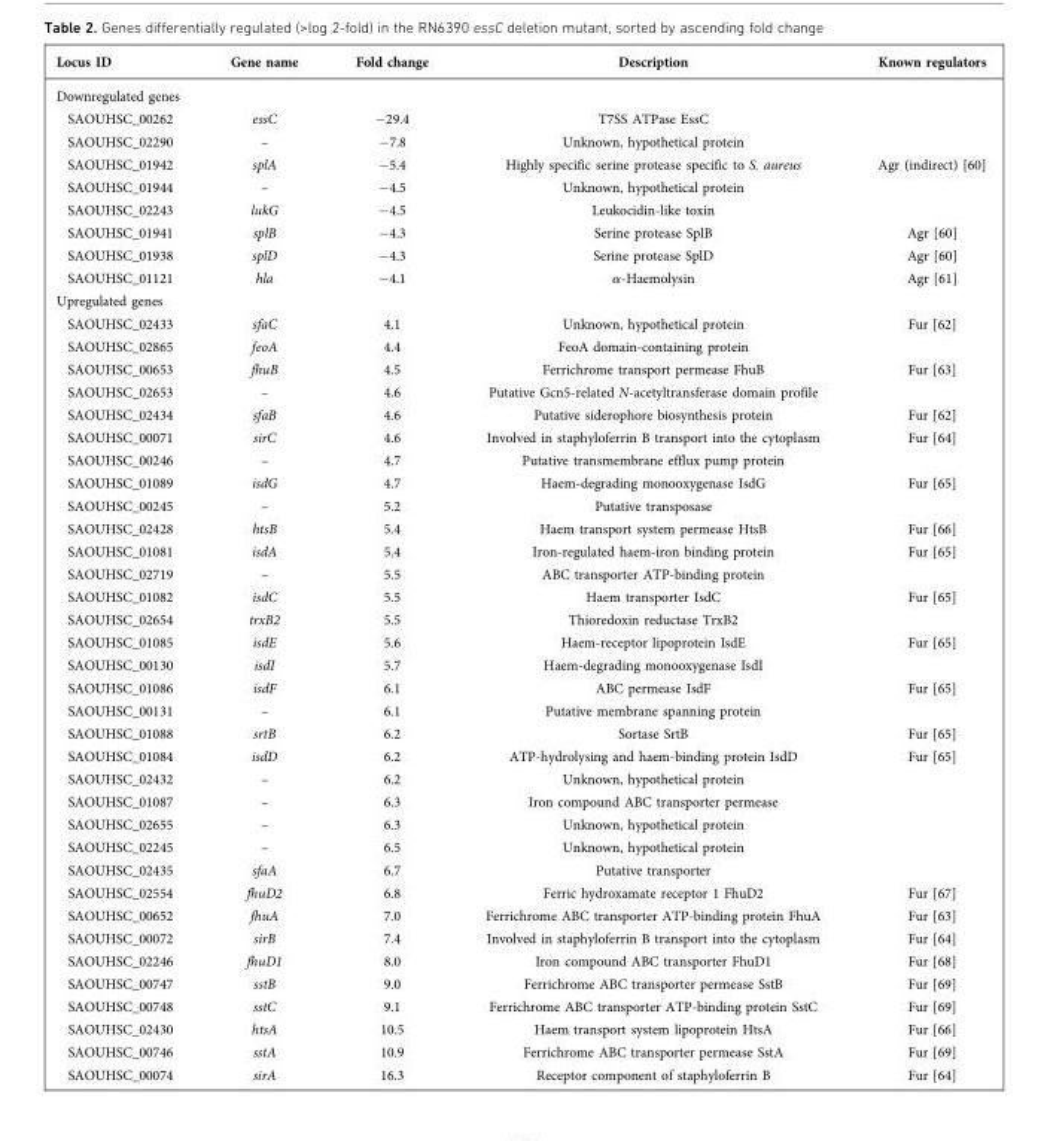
<table><thead><tr><td>Locus ID</td><td>Gene name</td><td>Fold change</td><td>Description</td><td>Known regulators</td></tr></thead><tbody><tr><td colspan="5">Downregulated genes</td></tr><tr><td>SAOUHSC_00262</td><td>essC</td><td>−29.4</td><td>T7SS ATPase EssC</td><td></td></tr><tr><td>SAOUHSC_02290</td><td>–</td><td>−7.8</td><td>Unknown, hypothetical protein</td><td></td></tr><tr><td>SAOUHSC_01942</td><td>splA</td><td>−5.4</td><td>Highly specific serine protease specific to S. aureus</td><td>Agr (indirect) [60]</td></tr><tr><td>SAOUHSC_01944</td><td>–</td><td>−4.5</td><td>Unknown, hypothetical protein</td><td></td></tr><tr><td>SAOUHSC_02243</td><td>lukG</td><td>−4.5</td><td>Leukocidin-like toxin</td><td></td></tr><tr><td>SAOUHSC_01941</td><td>splB</td><td>−4.3</td><td>Serine protease SplB</td><td>Agr [60]</td></tr><tr><td>SAOUHSC_01938</td><td>splD</td><td>−4.3</td><td>Serine protease SplD</td><td>Agr [60]</td></tr><tr><td>SAOUHSC_01121</td><td>hla</td><td>−4.1</td><td>α-Haemolysin</td><td>Agr [61]</td></tr><tr><td colspan="5">Upregulated genes</td></tr><tr><td>SAOUHSC_02433</td><td>sfaC</td><td>4.1</td><td>Unknown, hypothetical protein</td><td>Fur [62]</td></tr><tr><td>SAOUHSC_02865</td><td>feoA</td><td>4.4</td><td>FeoA domain-containing protein</td><td></td></tr><tr><td>SAOUHSC_00653</td><td>fhuB</td><td>4.5</td><td>Ferrichrome transport permease FhuB</td><td>Fur [63]</td></tr><tr><td>SAOUHSC_02653</td><td>–</td><td>4.6</td><td>Putative Gcn5-related N-acetyltransferase domain profile</td><td></td></tr><tr><td>SAOUHSC_02434</td><td>sfaB</td><td>4.6</td><td>Putative siderophore biosynthesis protein</td><td>Fur [62]</td></tr><tr><td>SAOUHSC_00071</td><td>sirC</td><td>4.6</td><td>Involved in staphyloferrin B transport into the cytoplasm</td><td>Fur [64]</td></tr><tr><td>SAOUHSC_00246</td><td>–</td><td>4.7</td><td>Putative transmembrane efflux pump protein</td><td></td></tr><tr><td>SAOUHSC_01089</td><td>isdG</td><td>4.7</td><td>Haem-degrading monooxygenase IsdG</td><td>Fur [65]</td></tr><tr><td>SAOUHSC_00245</td><td>–</td><td>5.2</td><td>Putative transposase</td><td></td></tr><tr><td>SAOUHSC_02428</td><td>htsB</td><td>5.4</td><td>Haem transport system permease HtsB</td><td>Fur [66]</td></tr><tr><td>SAOUHSC_01081</td><td>isdA</td><td>5.4</td><td>Iron-regulated haem-iron binding protein</td><td>Fur [65]</td></tr><tr><td>SAOUHSC_02719</td><td>–</td><td>5.5</td><td>ABC transporter ATP-binding protein</td><td></td></tr><tr><td>SAOUHSC_01082</td><td>isdC</td><td>5.5</td><td>Haem transporter IsdC</td><td>Fur [65]</td></tr><tr><td>SAOUHSC_02654</td><td>trxB2</td><td>5.5</td><td>Thioredoxin reductase TrxB2</td><td></td></tr><tr><td>SAOUHSC_01085</td><td>isdE</td><td>5.6</td><td>Haem-receptor lipoprotein IsdE</td><td>Fur [65]</td></tr><tr><td>SAOUHSC_00130</td><td>isdI</td><td>5.7</td><td>Haem-degrading monooxygenase IsdI</td><td></td></tr><tr><td>SAOUHSC_01086</td><td>isdF</td><td>6.1</td><td>ABC permease IsdF</td><td>Fur [65]</td></tr><tr><td>SAOUHSC_00131</td><td>–</td><td>6.1</td><td>Putative membrane spanning protein</td><td></td></tr><tr><td>SAOUHSC_01088</td><td>srtB</td><td>6.2</td><td>Sortase SrtB</td><td>Fur [65]</td></tr><tr><td>SAOUHSC_01084</td><td>isdD</td><td>6.2</td><td>ATP-hydrolysing and haem-binding protein IsdD</td><td>Fur [65]</td></tr><tr><td>SAOUHSC_02432</td><td>–</td><td>6.2</td><td>Unknown, hypothetical protein</td><td></td></tr><tr><td>SAOUHSC_01087</td><td>–</td><td>6.3</td><td>Iron compound ABC transporter permease</td><td></td></tr><tr><td>SAOUHSC_02655</td><td>–</td><td>6.3</td><td>Unknown, hypothetical protein</td><td></td></tr><tr><td>SAOUHSC_02245</td><td>–</td><td>6.5</td><td>Unknown, hypothetical protein</td><td></td></tr><tr><td>SAOUHSC_02435</td><td>sfaA</td><td>6.7</td><td>Putative transporter</td><td></td></tr><tr><td>SAOUHSC_02554</td><td>fhuD2</td><td>6.8</td><td>Ferric hydroxamate receptor 1 FhuD2</td><td>Fur [67]</td></tr><tr><td>SAOUHSC_00652</td><td>fhuA</td><td>7.0</td><td>Ferrichrome ABC transporter ATP-binding protein FhuA</td><td>Fur [63]</td></tr><tr><td>SAOUHSC_00072</td><td>sirB</td><td>7.4</td><td>Involved in staphyloferrin B transport into the cytoplasm</td><td>Fur [64]</td></tr><tr><td>SAOUHSC_02246</td><td>fhuD1</td><td>8.0</td><td>Iron compound ABC transporter FhuD1</td><td>Fur [68]</td></tr><tr><td>SAOUHSC_00747</td><td>sstB</td><td>9.0</td><td>Ferrichrome ABC transporter permease SstB</td><td>Fur [69]</td></tr><tr><td>SAOUHSC_00748</td><td>sstC</td><td>9.1</td><td>Ferrichrome ABC transporter ATP-binding protein SstC</td><td>Fur [69]</td></tr><tr><td>SAOUHSC_02430</td><td>htsA</td><td>10.5</td><td>Haem transport system lipoprotein HtsA</td><td>Fur [66]</td></tr><tr><td>SAOUHSC_00746</td><td>sstA</td><td>10.9</td><td>Ferrichrome ABC transporter permease SstA</td><td>Fur [69]</td></tr><tr><td>SAOUHSC_00074</td><td>sirA</td><td>16.3</td><td>Receptor component of staphyloferrin B</td><td>Fur [64]</td></tr></tbody></table>